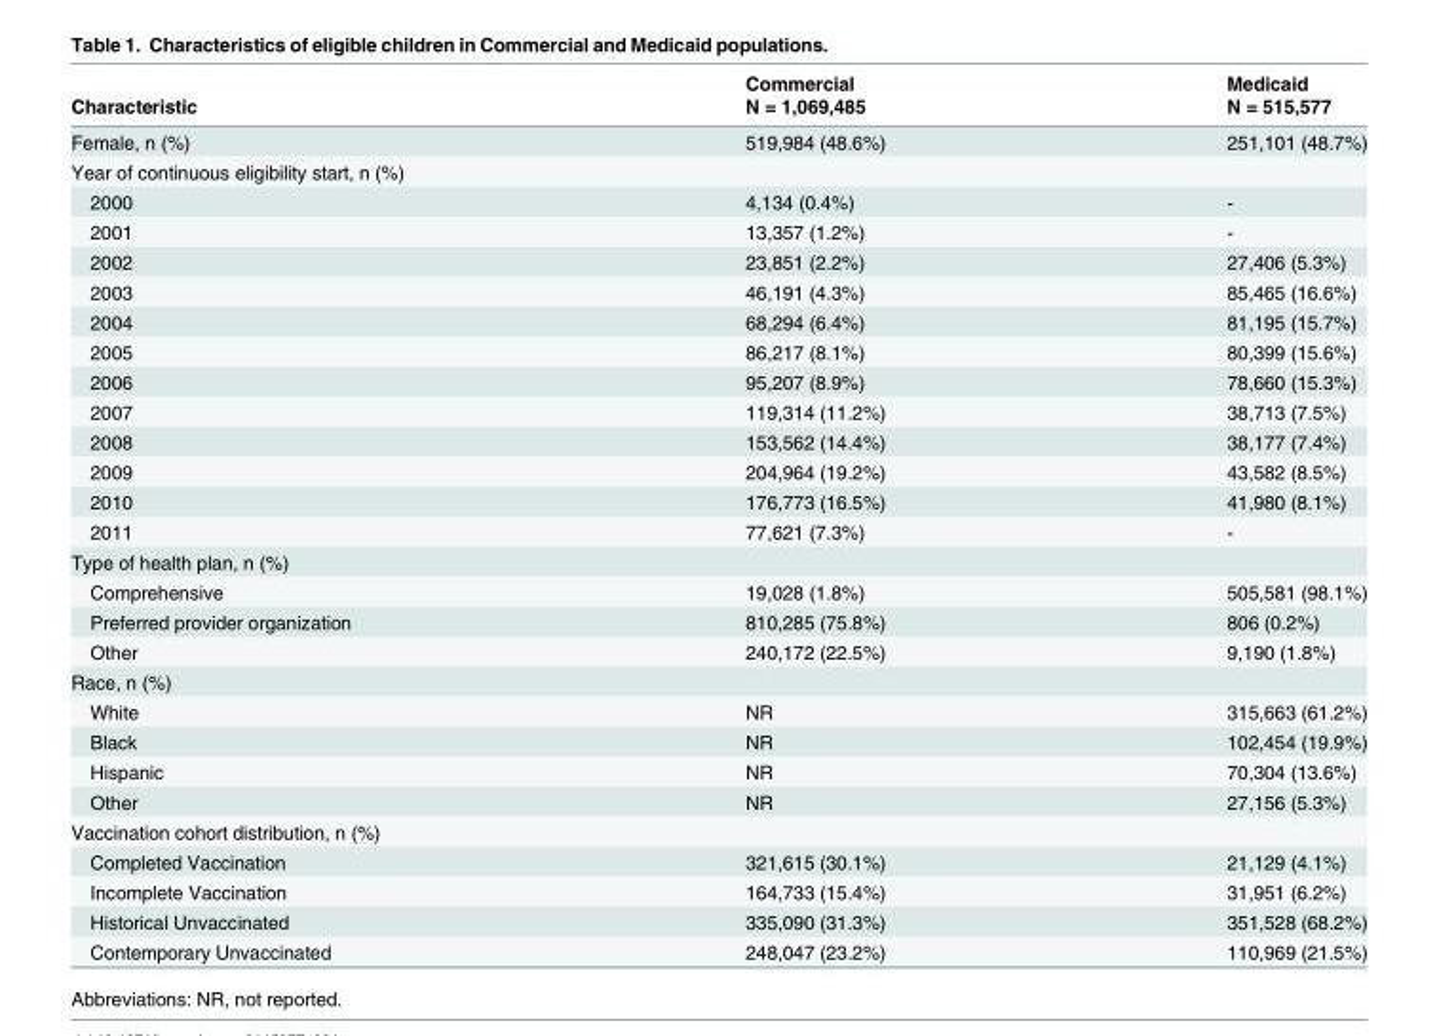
<table><thead><tr><td rowspan="2">Characteristic</td><td rowspan="2">Commercial N = 1,069,485</td><td rowspan="2">Medicaid N = 515,577</td></tr><tr></tr></thead><tbody><tr><td>Female, n (%)</td><td>519,984 (48.6%)</td><td>251,101 (48.7%)</td></tr><tr><td colspan="3">Year of continuous eligibility start, n (%)</td></tr><tr><td>2000</td><td>4,134 (0.4%)</td><td>-</td></tr><tr><td>2001</td><td>13,357 (1.2%)</td><td>-</td></tr><tr><td>2002</td><td>23,851 (2.2%)</td><td>27,406 (5.3%)</td></tr><tr><td>2003</td><td>46,191 (4.3%)</td><td>85,465 (16.6%)</td></tr><tr><td>2004</td><td>68,294 (6.4%)</td><td>81,195 (15.7%)</td></tr><tr><td>2005</td><td>86,217 (8.1%)</td><td>80,399 (15.6%)</td></tr><tr><td>2006</td><td>95,207 (8.9%)</td><td>78,660 (15.3%)</td></tr><tr><td>2007</td><td>119,314 (11.2%)</td><td>38,713 (7.5%)</td></tr><tr><td>2008</td><td>153,562 (14.4%)</td><td>38,177 (7.4%)</td></tr><tr><td>2009</td><td>204,964 (19.2%)</td><td>43,582 (8.5%)</td></tr><tr><td>2010</td><td>176,773 (16.5%)</td><td>41,980 (8.1%)</td></tr><tr><td>2011</td><td>77,621 (7.3%)</td><td>-</td></tr><tr><td colspan="3">Type of health plan, n (%)</td></tr><tr><td>Comprehensive</td><td>19,028 (1.8%)</td><td>505,581 (98.1%)</td></tr><tr><td>Preferred provider organization</td><td>810,285 (75.8%)</td><td>806 (0.2%)</td></tr><tr><td>Other</td><td>240,172 (22.5%)</td><td>9,190 (1.8%)</td></tr><tr><td colspan="3">Race, n (%)</td></tr><tr><td>White</td><td>NR</td><td>315,663 (61.2%)</td></tr><tr><td>Black</td><td>NR</td><td>102,454 (19.9%)</td></tr><tr><td>Hispanic</td><td>NR</td><td>70,304 (13.6%)</td></tr><tr><td>Other</td><td>NR</td><td>27,156 (5.3%)</td></tr><tr><td colspan="3">Vaccination cohort distribution, n (%)</td></tr><tr><td>Completed Vaccination</td><td>321,615 (30.1%)</td><td>21,129 (4.1%)</td></tr><tr><td>Incomplete Vaccination</td><td>164,733 (15.4%)</td><td>31,951 (6.2%)</td></tr><tr><td>Historical Unvaccinated</td><td>335,090 (31.3%)</td><td>351,528 (68.2%)</td></tr><tr><td>Contemporary Unvaccinated</td><td>248,047 (23.2%)</td><td>110,969 (21.5%)</td></tr></tbody></table>